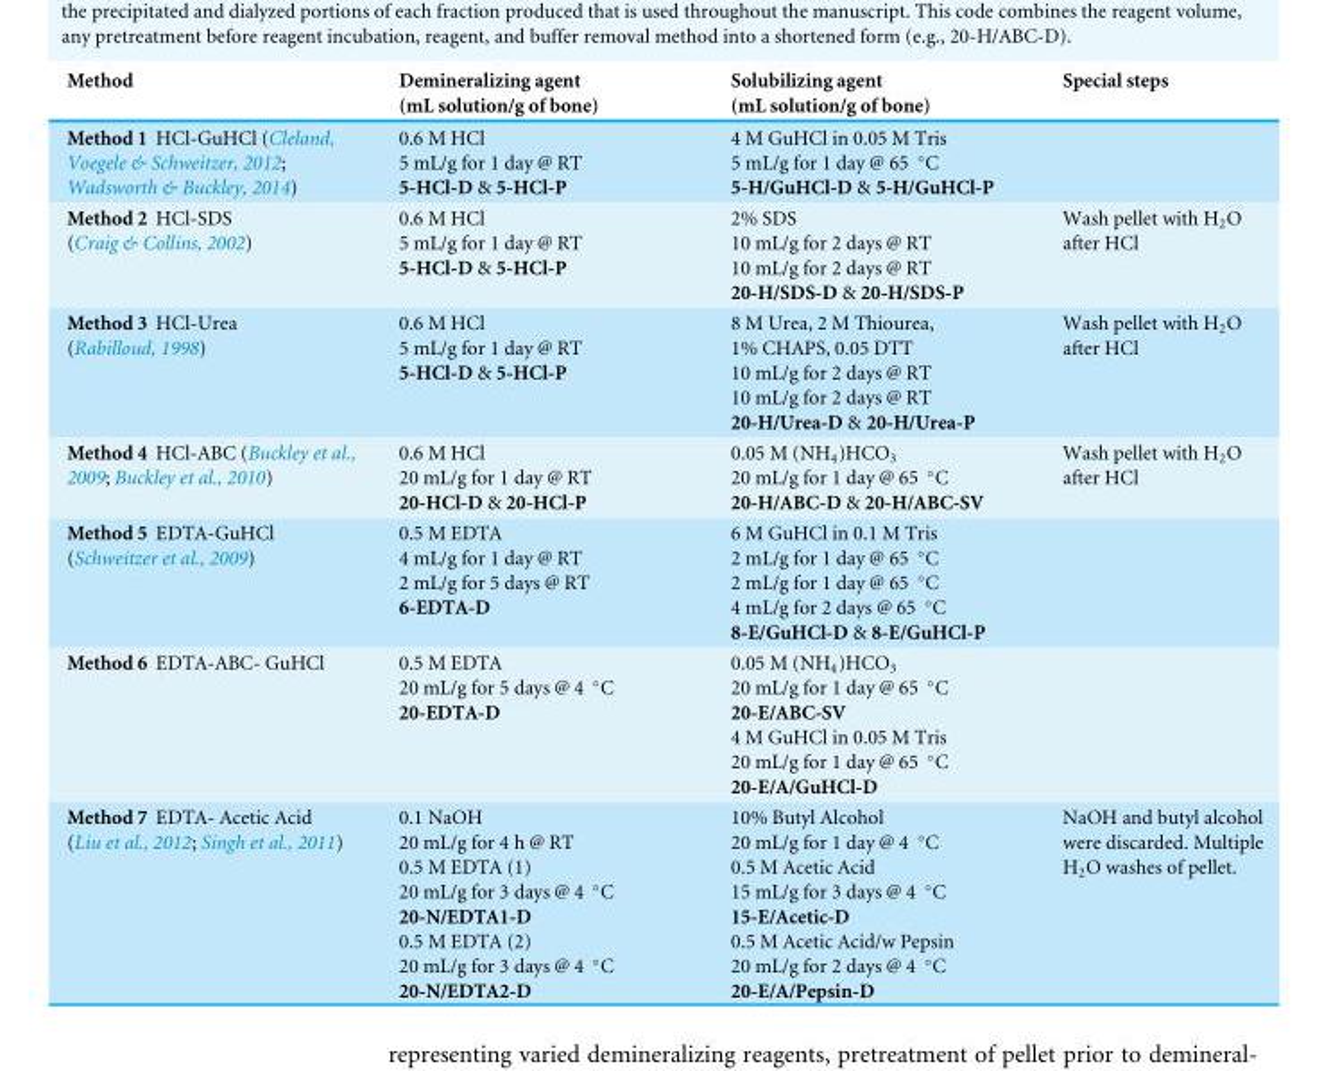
<table><thead><tr><td>Method</td><td>Demineralizing agent (mL solution/g of bone)</td><td>Solubilizing agent (mL solution/g of bone)</td><td>Special steps</td></tr></thead><tbody><tr><td>Method 1 HCl-GuHCl (Cleland, Voegele &amp; Schweitzer, 2012; Wadsworth &amp; Buckley, 2014)</td><td>0.6 M HCl 5 mL/g for 1 day @ RT 5-HCl-D &amp; 5-HCl-P</td><td>4 M GuHCl in 0.05 M Tris 5 mL/g for 1 day @ 65 ◦C 5-H/GuHCl-D &amp; 5-H/GuHCl-P</td><td></td></tr><tr><td>Method 2 HCl-SDS (Craig &amp; Collins, 2002)</td><td>0.6 M HCl 5 mL/g for 1 day @ RT 5-HCl-D &amp; 5-HCl-P</td><td>2% SDS 10 mL/g for 2 days @ RT 10 mL/g for 2 days @ RT 20-H/SDS-D &amp; 20-H/SDS-P</td><td>Wash pellet with H<sub>2</sub>O after HCl</td></tr><tr><td>Method 3 HCl-Urea (Rabilloud, 1998)</td><td>0.6 M HCl 5 mL/g for 1 day @ RT 5-HCl-D &amp; 5-HCl-P</td><td>8 M Urea, 2 M Thiourea, 1% CHAPS, 0.05 DTT 10 mL/g for 2 days @ RT 10 mL/g for 2 days @ RT 20-H/Urea-D &amp; 20-H/Urea-P</td><td>Wash pellet with H<sub>2</sub>O after HCl</td></tr><tr><td>Method 4 HCl-ABC (Buckley et al., 2009; Buckley et al., 2010)</td><td>0.6 M HCl 20 mL/g for 1 day @ RT 20-HCl-D &amp; 20-HCl-P</td><td>0.05 M (NH4)HCO3 20 mL/g for 1 day @ 65 ◦C 20-H/ABC-D &amp; 20-H/ABC-SV</td><td>Wash pellet with H<sub>2</sub>O after HCl</td></tr><tr><td>Method 5 EDTA-GuHCl (Schweitzer et al., 2009)</td><td>0.5 M EDTA 4 mL/g for 1 day @ RT 2 mL/g for 5 days @ RT 6-EDTA-D</td><td>6 M GuHCl in 0.1 M Tris 2 mL/g for 1 day @ 65 ◦C 2 mL/g for 1 day @ 65 ◦C 4 mL/g for 2 days @ 65 ◦C 8-E/GuHCl-D &amp; 8-E/GuHCl-P</td><td></td></tr><tr><td>Method 6 EDTA-ABC- GuHCl</td><td>0.5 M EDTA 20 mL/g for 5 days @ 4 ◦C 20-EDTA-D</td><td>0.05 M (NH4)HCO3 20 mL/g for 1 day @ 65 ◦C 20-E/ABC-SV 4 M GuHCl in 0.05 M Tris 20 mL/g for 1 day @ 65 ◦C 20-E/A/GuHCl-D</td><td></td></tr><tr><td>Method 7 EDTA- Acetic Acid (Liu et al., 2012; Singh et al., 2011)</td><td>0.1 NaOH 20 mL/g for 4 h @ RT 0.5 M EDTA (1) 20 mL/g for 3 days @ 4 ◦C 20-N/EDTA1-D 0.5 M EDTA (2) 20 mL/g for 3 days @ 4 ◦C 20-N/EDTA2-D</td><td>10% Butyl Alcohol 20 mL/g for 1 day @ 4 ◦C 0.5 M Acetic Acid 15 mL/g for 3 days @ 4 ◦C 15-E/Acetic-D 0.5 M Acetic Acid/w Pepsin 20 mL/g for 2 days @ 4 ◦C 20-E/A/Pepsin-D</td><td>NaOH and butyl alcohol were discarded. Multiple H<sub>2</sub>O washes of pellet.</td></tr></tbody></table>